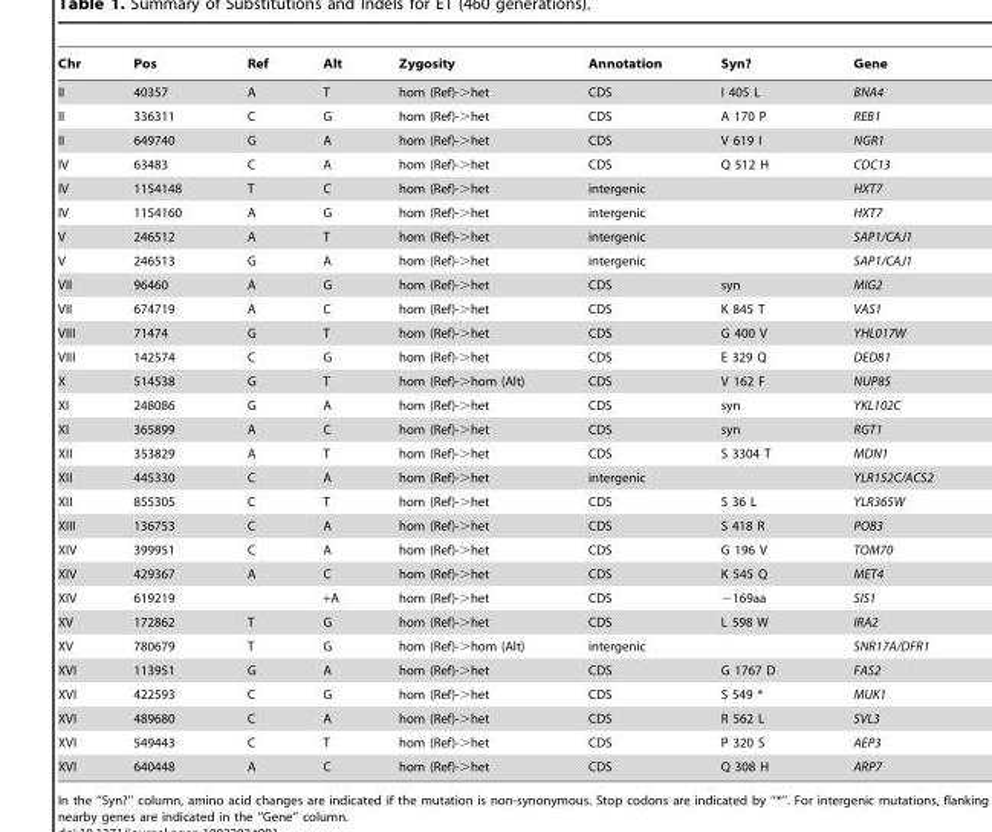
<table><thead><tr><td>Chr</td><td>Pos</td><td>Ref</td><td>Alt</td><td>Zygosity</td><td>Annotation</td><td>Syn?</td><td>Gene</td></tr></thead><tbody><tr><td>II</td><td>40357</td><td>A</td><td>T</td><td>hom (Ref)-&gt;het</td><td>CDS</td><td>I 405 L</td><td>BNA4</td></tr><tr><td>II</td><td>336311</td><td>C</td><td>G</td><td>hom (Ref)-&gt;het</td><td>CDS</td><td>A 170 P</td><td>REB1</td></tr><tr><td>II</td><td>649740</td><td>G</td><td>A</td><td>hom (Ref)-&gt;het</td><td>CDS</td><td>V 619 I</td><td>NGR1</td></tr><tr><td>IV</td><td>63483</td><td>C</td><td>A</td><td>hom (Ref)-&gt;het</td><td>CDS</td><td>Q 512 H</td><td>CDC13</td></tr><tr><td>IV</td><td>1154148</td><td>T</td><td>C</td><td>hom (Ref)-&gt;het</td><td>intergenic</td><td></td><td>HXT7</td></tr><tr><td>IV</td><td>1154160</td><td>A</td><td>G</td><td>hom (Ref)-&gt;het</td><td>intergenic</td><td></td><td>HXT7</td></tr><tr><td>V</td><td>246512</td><td>A</td><td>T</td><td>hom (Ref)-&gt;het</td><td>intergenic</td><td></td><td>SAP1/CAJ1</td></tr><tr><td>V</td><td>246513</td><td>G</td><td>A</td><td>hom (Ref)-&gt;het</td><td>intergenic</td><td></td><td>SAP1/CAJ1</td></tr><tr><td>VII</td><td>96460</td><td>A</td><td>G</td><td>hom (Ref)-&gt;het</td><td>CDS</td><td>syn</td><td>MIG2</td></tr><tr><td>VII</td><td>674719</td><td>A</td><td>C</td><td>hom (Ref)-&gt;het</td><td>CDS</td><td>K 845 T</td><td>VAS1</td></tr><tr><td>VIII</td><td>71474</td><td>G</td><td>T</td><td>hom (Ref)-&gt;het</td><td>CDS</td><td>G 400 V</td><td>YHL017W</td></tr><tr><td>VIII</td><td>142574</td><td>C</td><td>G</td><td>hom (Ref)-&gt;het</td><td>CDS</td><td>E 329 Q</td><td>DED81</td></tr><tr><td>X</td><td>514538</td><td>G</td><td>T</td><td>hom (Ref)-&gt;hom (Alt)</td><td>CDS</td><td>V 162 F</td><td>NUP85</td></tr><tr><td>XI</td><td>248086</td><td>G</td><td>A</td><td>hom (Ref)-&gt;het</td><td>CDS</td><td>syn</td><td>YKL102C</td></tr><tr><td>XI</td><td>365899</td><td>A</td><td>C</td><td>hom (Ref)-&gt;het</td><td>CDS</td><td>syn</td><td>RGT1</td></tr><tr><td>XII</td><td>353829</td><td>A</td><td>T</td><td>hom (Ref)-&gt;het</td><td>CDS</td><td>S 3304 T</td><td>MDN1</td></tr><tr><td>XII</td><td>445330</td><td>C</td><td>A</td><td>hom (Ref)-&gt;het</td><td>intergenic</td><td></td><td>YLR152C/ACS2</td></tr><tr><td>XII</td><td>855305</td><td>C</td><td>T</td><td>hom (Ref)-&gt;het</td><td>CDS</td><td>S 36 L</td><td>YLR365W</td></tr><tr><td>XIII</td><td>136753</td><td>C</td><td>A</td><td>hom (Ref)-&gt;het</td><td>CDS</td><td>S 418 R</td><td>POB3</td></tr><tr><td>XIV</td><td>399951</td><td>C</td><td>A</td><td>hom (Ref)-&gt;het</td><td>CDS</td><td>G 196 V</td><td>TOM70</td></tr><tr><td>XIV</td><td>429367</td><td>A</td><td>C</td><td>hom (Ref)-&gt;het</td><td>CDS</td><td>K 545 Q</td><td>MET4</td></tr><tr><td>XIV</td><td>619219</td><td></td><td>+A</td><td>hom (Ref)-&gt;het</td><td>CDS</td><td>−169aa</td><td>SIS1</td></tr><tr><td>XV</td><td>172862</td><td>T</td><td>G</td><td>hom (Ref)-&gt;het</td><td>CDS</td><td>L 598 W</td><td>IRA2</td></tr><tr><td>XV</td><td>780679</td><td>T</td><td>G</td><td>hom (Ref)-&gt;hom (Alt)</td><td>intergenic</td><td></td><td>SNR17A/DFR1</td></tr><tr><td>XVI</td><td>113951</td><td>G</td><td>A</td><td>hom (Ref)-&gt;het</td><td>CDS</td><td>G 1767 D</td><td>FAS2</td></tr><tr><td>XVI</td><td>422593</td><td>C</td><td>G</td><td>hom (Ref)-&gt;het</td><td>CDS</td><td>S 549 *</td><td>MUK1</td></tr><tr><td>XVI</td><td>489680</td><td>C</td><td>A</td><td>hom (Ref)-&gt;het</td><td>CDS</td><td>R 562 L</td><td>SVL3</td></tr><tr><td>XVI</td><td>549443</td><td>C</td><td>T</td><td>hom (Ref)-&gt;het</td><td>CDS</td><td>P 320 S</td><td>AEP3</td></tr><tr><td>XVI</td><td>640448</td><td>A</td><td>C</td><td>hom (Ref)-&gt;het</td><td>CDS</td><td>Q 308 H</td><td>ARP7</td></tr></tbody></table>